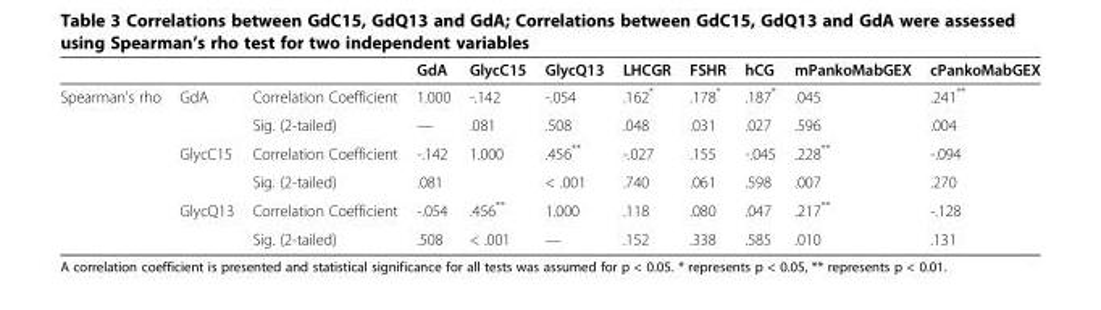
<table><thead><tr><td></td><td></td><td></td><td>GdA</td><td>GlycC15</td><td>GlycQ13</td><td>LHCGR</td><td>FSHR</td><td>hCG</td><td>mPankoMabGEX</td><td>cPankoMabGEX</td></tr></thead><tbody><tr><td rowspan="6">Spearman&#x27;s rho</td><td rowspan="2">GdA</td><td>Correlation Coefficient</td><td>1.000</td><td>-.142</td><td>-.054</td><td>.162*</td><td>.178*</td><td>.187*</td><td>.045</td><td>.241**</td></tr><tr><td>Sig. (2-tailed)</td><td>—</td><td>.081</td><td>.508</td><td>.048</td><td>.031</td><td>.027</td><td>.596</td><td>.004</td></tr><tr><td rowspan="2">GlycC15</td><td>Correlation Coefficient</td><td>-.142</td><td>1.000</td><td>.456**</td><td>-.027</td><td>.155</td><td>-.045</td><td>.228**</td><td>-.094</td></tr><tr><td>Sig. (2-tailed)</td><td>.081</td><td></td><td>&lt; .001</td><td>.740</td><td>.061</td><td>.598</td><td>.007</td><td>.270</td></tr><tr><td rowspan="2">GlycQ13</td><td>Correlation Coefficient</td><td>-.054</td><td>.456**</td><td>1.000</td><td>.118</td><td>.080</td><td>.047</td><td>.217**</td><td>-.128</td></tr><tr><td>Sig. (2-tailed)</td><td>.508</td><td>&lt; .001</td><td>—</td><td>.152</td><td>.338</td><td>.585</td><td>.010</td><td>.131</td></tr></tbody></table>